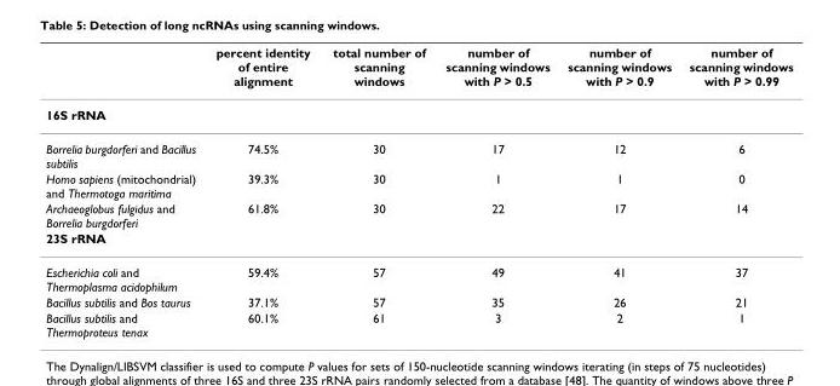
<table><thead><tr><td></td><td>percent identity of entire alignment</td><td>total number of scanning windows</td><td>number of scanning windows with P &gt; 0.5</td><td>number of scanning windows with P &gt; 0.9</td><td>number of scanning windows with P &gt; 0.99</td></tr></thead><tbody><tr><td colspan="6">16S rRNA</td></tr><tr><td>Borrelia burgdorferi and Bacillus subtilis</td><td>74.5%</td><td>30</td><td>17</td><td>12</td><td>6</td></tr><tr><td>Homo sapiens (mitochondrial) and Thermotoga maritima</td><td>39.3%</td><td>30</td><td>1</td><td>1</td><td>0</td></tr><tr><td>Archaeoglobus fulgidus and Borrelia burgdorferi</td><td>61.8%</td><td>30</td><td>22</td><td>17</td><td>14</td></tr><tr><td colspan="6">23S rRNA</td></tr><tr><td>Escherichia coli and Thermoplasma acidophilum</td><td>59.4%</td><td>57</td><td>49</td><td>41</td><td>37</td></tr><tr><td>Bacillus subtilis and Bos taurus</td><td>37.1%</td><td>57</td><td>35</td><td>26</td><td>21</td></tr><tr><td>Bacillus subtilis and Thermoproteus tenax</td><td>60.1%</td><td>61</td><td>3</td><td>2</td><td>1</td></tr></tbody></table>